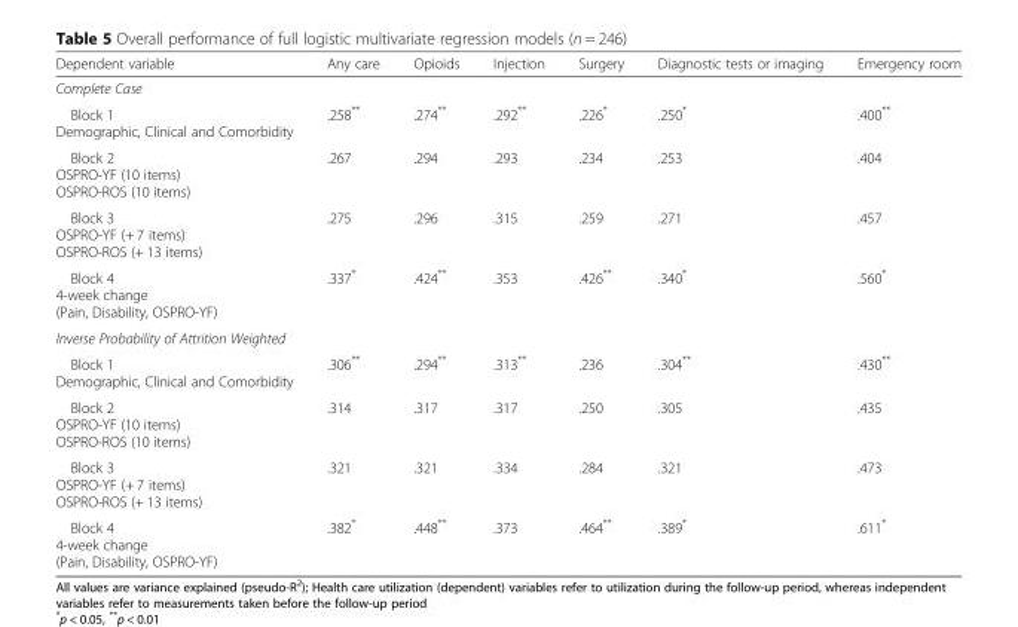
<table><thead><tr><td>Dependent variable</td><td>Any care</td><td>Opioids</td><td>Injection</td><td>Surgery</td><td>Diagnostic tests or imaging</td><td>Emergency room</td></tr></thead><tbody><tr><td colspan="7">Complete Case</td></tr><tr><td>Block 1 Demographic, Clinical and Comorbidity</td><td>.258**</td><td>.274**</td><td>.292**</td><td>.226*</td><td>.250*</td><td>.400**</td></tr><tr><td>Block 2 OSPRO-YF (10 items) OSPRO-ROS (10 items)</td><td>.267</td><td>.294</td><td>.293</td><td>.234</td><td>.253</td><td>.404</td></tr><tr><td>Block 3 OSPRO-YF (+ 7 items) OSPRO-ROS (+ 13 items)</td><td>.275</td><td>.296</td><td>.315</td><td>.259</td><td>.271</td><td>.457</td></tr><tr><td>Block 4 4-week change (Pain, Disability, OSPRO-YF)</td><td>.337*</td><td>.424**</td><td>.353</td><td>.426**</td><td>.340*</td><td>.560*</td></tr><tr><td colspan="7">Inverse Probability of Attrition Weighted</td></tr><tr><td>Block 1 Demographic, Clinical and Comorbidity</td><td>.306**</td><td>.294**</td><td>.313**</td><td>.236</td><td>.304**</td><td>.430**</td></tr><tr><td>Block 2 OSPRO-YF (10 items) OSPRO-ROS (10 items)</td><td>.314</td><td>.317</td><td>.317</td><td>.250</td><td>.305</td><td>.435</td></tr><tr><td>Block 3 OSPRO-YF (+ 7 items) OSPRO-ROS (+ 13 items)</td><td>.321</td><td>.321</td><td>.334</td><td>.284</td><td>.321</td><td>.473</td></tr><tr><td>Block 4 4-week change (Pain, Disability, OSPRO-YF)</td><td>.382*</td><td>.448**</td><td>.373</td><td>.464**</td><td>.389*</td><td>.611*</td></tr></tbody></table>